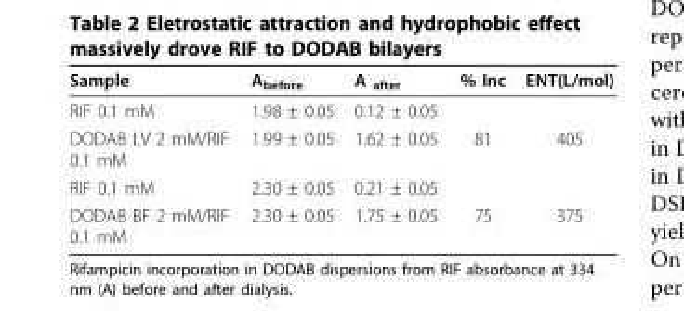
<table><thead><tr><td>Sample</td><td>A<sub>before</sub></td><td>A <sub>after</sub></td><td>% Inc</td><td>ENT(L/mol)</td></tr></thead><tbody><tr><td>RIF 0.1 mM</td><td>1.98 ± 0.05</td><td>0.12 ± 0.05</td><td></td><td></td></tr><tr><td>DODAB LV 2 mM/RIF 0.1 mM</td><td>1.99 ± 0.05</td><td>1.62 ± 0.05</td><td>81</td><td>405</td></tr><tr><td>RIF 0.1 mM</td><td>2.30 ± 0.05</td><td>0.21 ± 0.05</td><td></td><td></td></tr><tr><td>DODAB BF 2 mM/RIF 0.1 mM</td><td>2.30 ± 0.05</td><td>1.75 ± 0.05</td><td>75</td><td>375</td></tr></tbody></table>